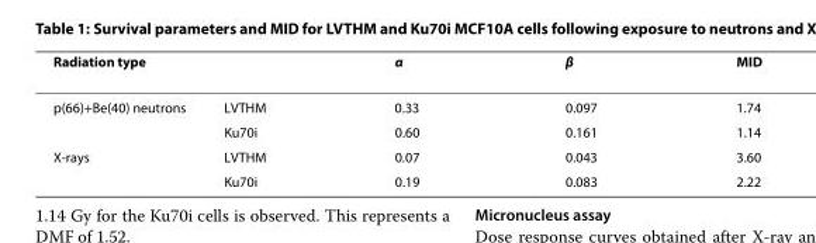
<table><thead><tr><td>Radiation type</td><td></td><td>α</td><td>β</td><td>MID</td></tr></thead><tbody><tr><td rowspan="2">p(66)+Be(40) neutrons</td><td>LVTHM</td><td>0.33</td><td>0.097</td><td>1.74</td></tr><tr><td>Ku70i</td><td>0.60</td><td>0.161</td><td>1.14</td></tr><tr><td rowspan="2">X-rays</td><td>LVTHM</td><td>0.07</td><td>0.043</td><td>3.60</td></tr><tr><td>Ku70i</td><td>0.19</td><td>0.083</td><td>2.22</td></tr></tbody></table>